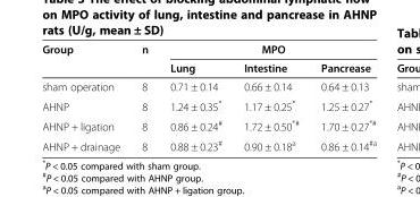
<table><thead><tr><td rowspan="2">Group</td><td rowspan="2">n</td><td colspan="3">MPO</td></tr><tr><td>Lung</td><td>Intestine</td><td>Pancrease</td></tr></thead><tbody><tr><td>sham operation</td><td>8</td><td>0.71 ± 0.14</td><td>0.66 ± 0.14</td><td>0.64 ± 0.13</td></tr><tr><td>AHNP</td><td>8</td><td>1.24 ± 0.35*</td><td>1.17 ± 0.25*</td><td>1.25 ± 0.27*</td></tr><tr><td>AHNP + ligation</td><td>8</td><td>0.86 ± 0.24<sup>#</sup></td><td>1.72 ± 0.50<sup>*#</sup></td><td>1.70 ± 0.27<sup>*#</sup></td></tr><tr><td>AHNP + drainage</td><td>8</td><td>0.88 ± 0.23<sup>#</sup></td><td>0.90 ± 0.18<sup>a</sup></td><td>0.86 ± 0.14<sup>#a</sup></td></tr></tbody></table>